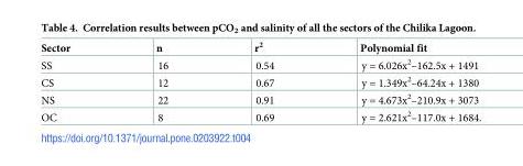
<table><thead><tr><td>Sector</td><td>n</td><td>r<sup>2</sup></td><td>Polynomial fit</td></tr></thead><tbody><tr><td>SS</td><td>16</td><td>0.54</td><td>y = 6.026x<sup>2</sup>–162.5x + 1491</td></tr><tr><td>CS</td><td>12</td><td>0.67</td><td>y = 1.349x<sup>2</sup>–64.24x + 1380</td></tr><tr><td>NS</td><td>22</td><td>0.91</td><td>y = 4.673x<sup>2</sup>–210.9x + 3073</td></tr><tr><td>OC</td><td>8</td><td>0.69</td><td>y = 2.621x<sup>2</sup>–117.0x + 1684.</td></tr></tbody></table>